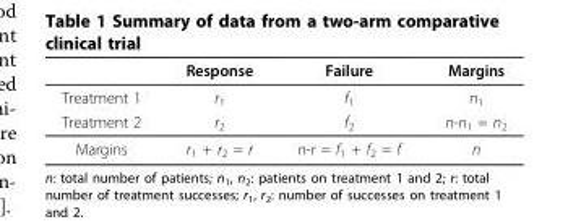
<table><thead><tr><td></td><td>Response</td><td>Failure</td><td>Margins</td></tr></thead><tbody><tr><td>Treatment 1</td><td>r<sub>1</sub></td><td>f<sub>1</sub></td><td>n<sub>1</sub></td></tr><tr><td>Treatment 2</td><td>r<sub>2</sub></td><td>f<sub>2</sub></td><td>n-n<sub>1</sub> = n<sub>2</sub></td></tr><tr><td>Margins</td><td>r<sub>1</sub> + r<sub>2</sub> = r</td><td>n-r = f<sub>1</sub> + f<sub>2</sub> = f</td><td>n</td></tr></tbody></table>